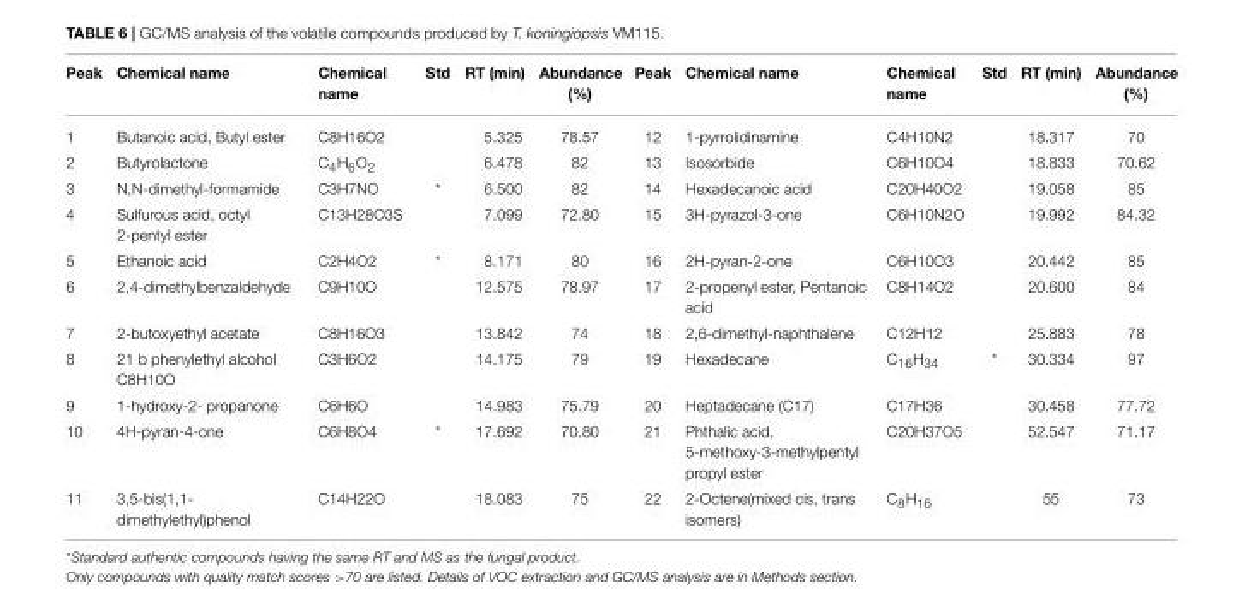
<table><thead><tr><td>Peak</td><td>Chemical name</td><td>Chemical name</td><td>Std</td><td>RT (min)</td><td>Abundance (%)</td><td>Peak</td><td>Chemical name</td><td>Chemical name</td><td>Std</td><td>RT (min)</td><td>Abundance (%)</td></tr></thead><tbody><tr><td>1</td><td>Butanoic acid, Butyl ester</td><td>C8H16O2</td><td></td><td>5.325</td><td>78.57</td><td>12</td><td>1-pyrrolidinamine</td><td>C4H10N2</td><td></td><td>18.317</td><td>70</td></tr><tr><td>2</td><td>Butyrolactone</td><td>C<sub>4</sub>H<sub>6</sub>O<sub>2</sub></td><td></td><td>6.478</td><td>82</td><td>13</td><td>Isosorbide</td><td>C6H10O4</td><td></td><td>18.833</td><td>70.62</td></tr><tr><td>3</td><td>N,N-dimethyl-formamide</td><td>C3H7NO</td><td>*</td><td>6.500</td><td>82</td><td>14</td><td>Hexadecanoic acid</td><td>C20H40O2</td><td></td><td>19.058</td><td>85</td></tr><tr><td>4</td><td>Sulfurous acid, octyl 2-pentyl ester</td><td>C13H28O3S</td><td></td><td>7.099</td><td>72.80</td><td>15</td><td>3H-pyrazol-3-one</td><td>C6H10N2O</td><td></td><td>19.992</td><td>84.32</td></tr><tr><td>5</td><td>Ethanoic acid</td><td>C2H4O2</td><td>*</td><td>8.171</td><td>80</td><td>16</td><td>2H-pyran-2-one</td><td>C6H10O3</td><td></td><td>20.442</td><td>85</td></tr><tr><td>6</td><td>2,4-dimethylbenzaldehyde</td><td>C9H10O</td><td></td><td>12.575</td><td>78.97</td><td>17</td><td>2-propenyl ester, Pentanoic acid</td><td>C8H14O2</td><td></td><td>20.600</td><td>84</td></tr><tr><td>7</td><td>2-butoxyethyl acetate</td><td>C8H16O3</td><td></td><td>13.842</td><td>74</td><td>18</td><td>2,6-dimethyl-naphthalene</td><td>C12H12</td><td></td><td>25.883</td><td>78</td></tr><tr><td>8</td><td>21 b phenylethyl alcohol C8H10O</td><td>C3H6O2</td><td></td><td>14.175</td><td>79</td><td>19</td><td>Hexadecane</td><td>C<sub>16</sub>H<sub>34</sub></td><td>*</td><td>30.334</td><td>97</td></tr><tr><td>9</td><td>1-hydroxy-2- propanone</td><td>C6H6O</td><td></td><td>14.983</td><td>75.79</td><td>20</td><td>Heptadecane (C17)</td><td>C17H36</td><td></td><td>30.458</td><td>77.72</td></tr><tr><td>10</td><td>4H-pyran-4-one</td><td>C6H8O4</td><td>*</td><td>17.692</td><td>70.80</td><td>21</td><td>Phthalic acid, 5-methoxy-3-methylpentyl propyl ester</td><td>C20H37O5</td><td></td><td>52.547</td><td>71.17</td></tr><tr><td>11</td><td>3,5-bis(1,1- dimethylethyl)phenol</td><td>C14H22O</td><td></td><td>18.083</td><td>75</td><td>22</td><td>2-Octene(mixed cis, trans isomers)</td><td>C<sub>8</sub>H<sub>16</sub></td><td></td><td>55</td><td>73</td></tr></tbody></table>